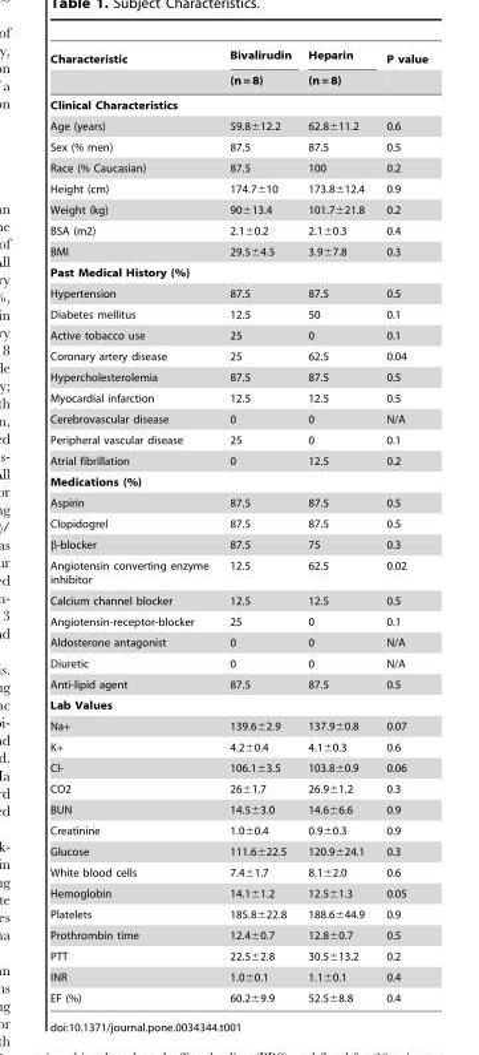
<table><thead><tr><td rowspan="2">Characteristic</td><td rowspan="2">Bivalirudin (n = 8)</td><td rowspan="2">Heparin (n = 8)</td><td rowspan="2">P value</td></tr><tr></tr></thead><tbody><tr><td colspan="4">Clinical Characteristics</td></tr><tr><td>Age (years)</td><td>59.8±12.2</td><td>62.8±11.2</td><td>0.6</td></tr><tr><td>Sex (% men)</td><td>87.5</td><td>87.5</td><td>0.5</td></tr><tr><td>Race (% Caucasian)</td><td>87.5</td><td>100</td><td>0.2</td></tr><tr><td>Height (cm)</td><td>174.7±10</td><td>173.8±12.4</td><td>0.9</td></tr><tr><td>Weight (kg)</td><td>90±13.4</td><td>101.7±21.8</td><td>0.2</td></tr><tr><td>BSA (m2)</td><td>2.1±0.2</td><td>2.1±0.3</td><td>0.4</td></tr><tr><td>BMI</td><td>29.5±4.5</td><td>3.9±7.8</td><td>0.3</td></tr><tr><td colspan="4">Past Medical History (%)</td></tr><tr><td>Hypertension</td><td>87.5</td><td>87.5</td><td>0.5</td></tr><tr><td>Diabetes mellitus</td><td>12.5</td><td>50</td><td>0.1</td></tr><tr><td>Active tobacco use</td><td>25</td><td>0</td><td>0.1</td></tr><tr><td>Coronary artery disease</td><td>25</td><td>62.5</td><td>0.04</td></tr><tr><td>Hypercholesterolemia</td><td>87.5</td><td>87.5</td><td>0.5</td></tr><tr><td>Myocardial infarction</td><td>12.5</td><td>12.5</td><td>0.5</td></tr><tr><td>Cerebrovascular disease</td><td>0</td><td>0</td><td>N/A</td></tr><tr><td>Peripheral vascular disease</td><td>25</td><td>0</td><td>0.1</td></tr><tr><td>Atrial fibrillation</td><td>0</td><td>12.5</td><td>0.2</td></tr><tr><td colspan="4">Medications (%)</td></tr><tr><td>Aspirin</td><td>87.5</td><td>87.5</td><td>0.5</td></tr><tr><td>Clopidogrel</td><td>87.5</td><td>87.5</td><td>0.5</td></tr><tr><td>β-blocker</td><td>87.5</td><td>75</td><td>0.3</td></tr><tr><td>Angiotensin converting enzyme inhibitor</td><td>12.5</td><td>62.5</td><td>0.02</td></tr><tr><td>Calcium channel blocker</td><td>12.5</td><td>12.5</td><td>0.5</td></tr><tr><td>Angiotensin-receptor-blocker</td><td>25</td><td>0</td><td>0.1</td></tr><tr><td>Aldosterone antagonist</td><td>0</td><td>0</td><td>N/A</td></tr><tr><td>Diuretic</td><td>0</td><td>0</td><td>N/A</td></tr><tr><td>Anti-lipid agent</td><td>87.5</td><td>87.5</td><td>0.5</td></tr><tr><td colspan="4">Lab Values</td></tr><tr><td>Na+</td><td>139.6±2.9</td><td>137.9±0.8</td><td>0.07</td></tr><tr><td>K+</td><td>4.2±0.4</td><td>4.1±0.3</td><td>0.6</td></tr><tr><td>Cl-</td><td>106.1±3.5</td><td>103.8±0.9</td><td>0.06</td></tr><tr><td>CO2</td><td>26±1.7</td><td>26.9±1.2</td><td>0.3</td></tr><tr><td>BUN</td><td>14.5±3.0</td><td>14.6±6.6</td><td>0.9</td></tr><tr><td>Creatinine</td><td>1.0±0.4</td><td>0.9±0.3</td><td>0.9</td></tr><tr><td>Glucose</td><td>111.6±22.5</td><td>120.9±24.1</td><td>0.3</td></tr><tr><td>White blood cells</td><td>7.4±1.7</td><td>8.1±2.0</td><td>0.6</td></tr><tr><td>Hemoglobin</td><td>14.1±1.2</td><td>12.5±1.3</td><td>0.05</td></tr><tr><td>Platelets</td><td>185.8±22.8</td><td>188.6±44.9</td><td>0.9</td></tr><tr><td>Prothrombin time</td><td>12.4±0.7</td><td>12.8±0.7</td><td>0.5</td></tr><tr><td>PTT</td><td>22.5±2.8</td><td>30.5±13.2</td><td>0.2</td></tr><tr><td>INR</td><td>1.0±0.1</td><td>1.1±0.1</td><td>0.4</td></tr><tr><td>EF (%)</td><td>60.2±9.9</td><td>52.5±8.8</td><td>0.4</td></tr></tbody></table>